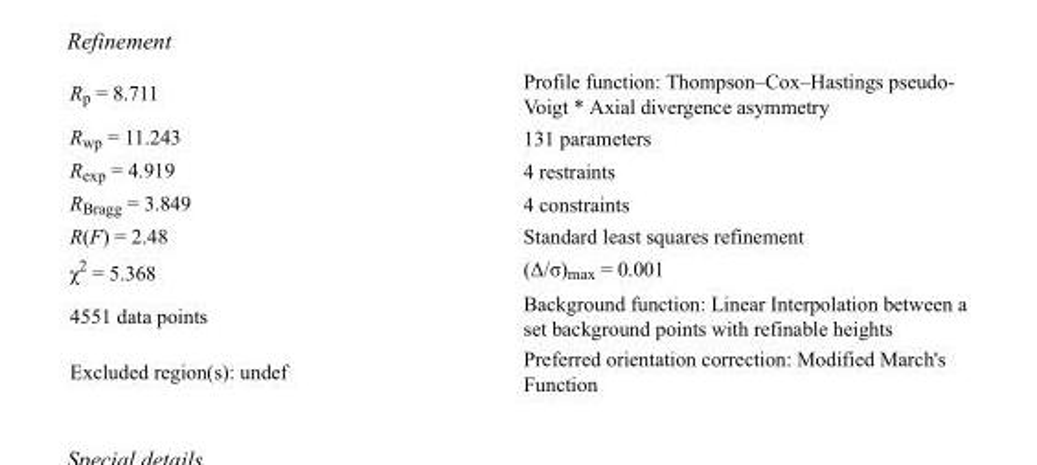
<table><tbody><tr><td>R<sub>p</sub> = 8.711</td><td>Profile function: Thompson–Cox–Hastings pseudo- Voigt * Axial divergence asymmetry</td></tr><tr><td>R<sub>wp</sub> = 11.243</td><td>131 parameters</td></tr><tr><td>R<sub>exp</sub> = 4.919</td><td>4 restraints</td></tr><tr><td>R<sub>Bragg</sub> = 3.849</td><td>4 constraints</td></tr><tr><td>R(F) = 2.48</td><td>Standard least squares refinement</td></tr><tr><td>χ<sup>2</sup> = 5.368</td><td>(Δ/σ)<sub>max</sub> = 0.001</td></tr><tr><td>4551 data points</td><td>Background function: Linear Interpolation between a set background points with refinable heights</td></tr><tr><td>Excluded region(s): undef</td><td>Preferred orientation correction: Modified March&#x27;s Function</td></tr></tbody></table>